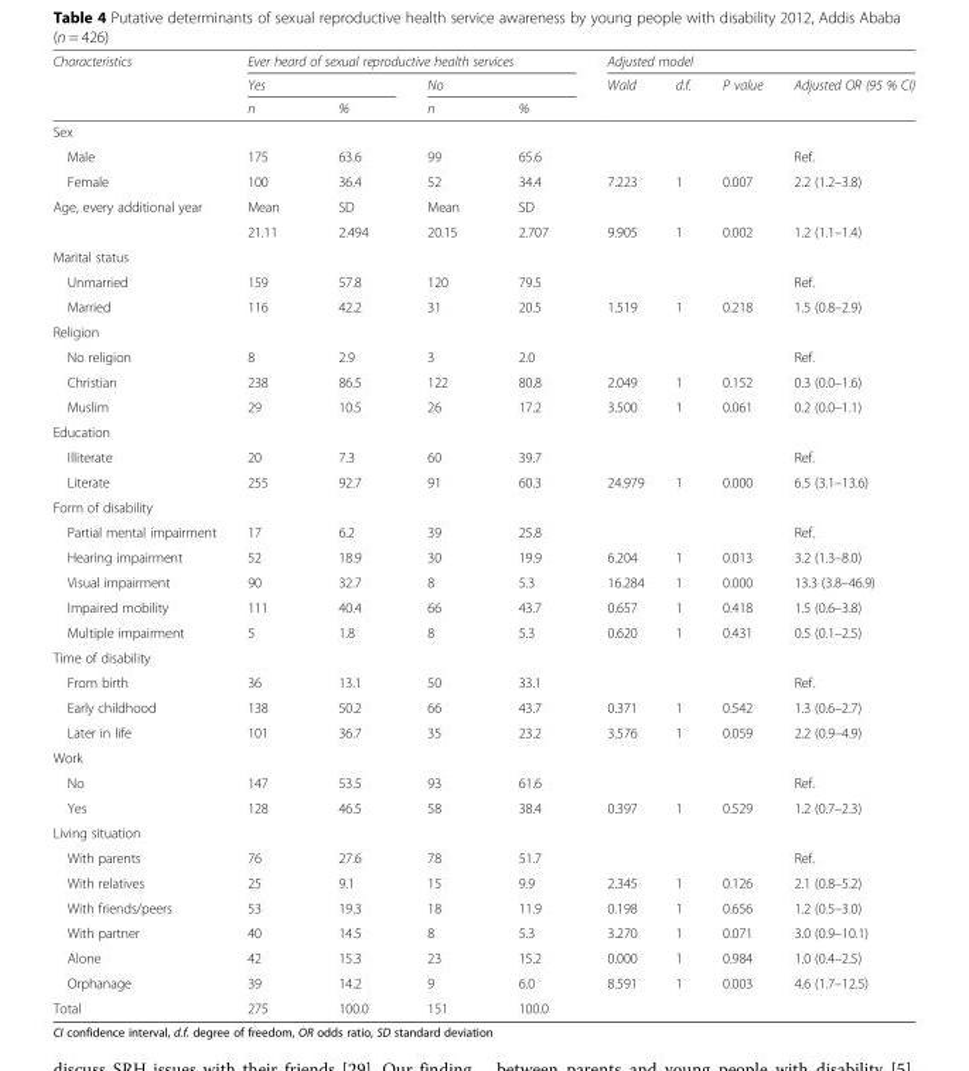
<table><thead><tr><td rowspan="3">Characteristics</td><td colspan="4">Ever heard of sexual reproductive health services</td><td colspan="4">Adjusted model</td></tr><tr><td colspan="2">Yes</td><td colspan="2">No</td><td rowspan="2">Wald</td><td rowspan="2">d.f.</td><td rowspan="2">P value</td><td rowspan="2">Adjusted OR (95 % CI)</td></tr><tr><td>n</td><td>%</td><td>n</td><td>%</td></tr></thead><tbody><tr><td colspan="9">Sex</td></tr><tr><td>Male</td><td>175</td><td>63.6</td><td>99</td><td>65.6</td><td></td><td></td><td></td><td>Ref.</td></tr><tr><td>Female</td><td>100</td><td>36.4</td><td>52</td><td>34.4</td><td>7.223</td><td>1</td><td>0.007</td><td>2.2 (1.2–3.8)</td></tr><tr><td rowspan="2">Age, every additional year</td><td>Mean</td><td>SD</td><td>Mean</td><td>SD</td><td></td><td></td><td></td><td></td></tr><tr><td>21.11</td><td>2.494</td><td>20.15</td><td>2.707</td><td>9.905</td><td>1</td><td>0.002</td><td>1.2 (1.1–1.4)</td></tr><tr><td colspan="9">Marital status</td></tr><tr><td>Unmarried</td><td>159</td><td>57.8</td><td>120</td><td>79.5</td><td></td><td></td><td></td><td>Ref.</td></tr><tr><td>Married</td><td>116</td><td>42.2</td><td>31</td><td>20.5</td><td>1.519</td><td>1</td><td>0.218</td><td>1.5 (0.8–2.9)</td></tr><tr><td colspan="9">Religion</td></tr><tr><td>No religion</td><td>8</td><td>2.9</td><td>3</td><td>2.0</td><td></td><td></td><td></td><td>Ref.</td></tr><tr><td>Christian</td><td>238</td><td>86.5</td><td>122</td><td>80.8</td><td>2.049</td><td>1</td><td>0.152</td><td>0.3 (0.0–1.6)</td></tr><tr><td>Muslim</td><td>29</td><td>10.5</td><td>26</td><td>17.2</td><td>3.500</td><td>1</td><td>0.061</td><td>0.2 (0.0–1.1)</td></tr><tr><td colspan="9">Education</td></tr><tr><td>Illiterate</td><td>20</td><td>7.3</td><td>60</td><td>39.7</td><td></td><td></td><td></td><td>Ref.</td></tr><tr><td>Literate</td><td>255</td><td>92.7</td><td>91</td><td>60.3</td><td>24.979</td><td>1</td><td>0.000</td><td>6.5 (3.1–13.6)</td></tr><tr><td colspan="9">Form of disability</td></tr><tr><td>Partial mental impairment</td><td>17</td><td>6.2</td><td>39</td><td>25.8</td><td></td><td></td><td></td><td>Ref.</td></tr><tr><td>Hearing impairment</td><td>52</td><td>18.9</td><td>30</td><td>19.9</td><td>6.204</td><td>1</td><td>0.013</td><td>3.2 (1.3–8.0)</td></tr><tr><td>Visual impairment</td><td>90</td><td>32.7</td><td>8</td><td>5.3</td><td>16.284</td><td>1</td><td>0.000</td><td>13.3 (3.8–46.9)</td></tr><tr><td>Impaired mobility</td><td>111</td><td>40.4</td><td>66</td><td>43.7</td><td>0.657</td><td>1</td><td>0.418</td><td>1.5 (0.6–3.8)</td></tr><tr><td>Multiple impairment</td><td>5</td><td>1.8</td><td>8</td><td>5.3</td><td>0.620</td><td>1</td><td>0.431</td><td>0.5 (0.1–2.5)</td></tr><tr><td colspan="9">Time of disability</td></tr><tr><td>From birth</td><td>36</td><td>13.1</td><td>50</td><td>33.1</td><td></td><td></td><td></td><td>Ref.</td></tr><tr><td>Early childhood</td><td>138</td><td>50.2</td><td>66</td><td>43.7</td><td>0.371</td><td>1</td><td>0.542</td><td>1.3 (0.6–2.7)</td></tr><tr><td>Later in life</td><td>101</td><td>36.7</td><td>35</td><td>23.2</td><td>3.576</td><td>1</td><td>0.059</td><td>2.2 (0.9–4.9)</td></tr><tr><td colspan="9">Work</td></tr><tr><td>No</td><td>147</td><td>53.5</td><td>93</td><td>61.6</td><td></td><td></td><td></td><td>Ref.</td></tr><tr><td>Yes</td><td>128</td><td>46.5</td><td>58</td><td>38.4</td><td>0.397</td><td>1</td><td>0.529</td><td>1.2 (0.7–2.3)</td></tr><tr><td colspan="9">Living situation</td></tr><tr><td>With parents</td><td>76</td><td>27.6</td><td>78</td><td>51.7</td><td></td><td></td><td></td><td>Ref.</td></tr><tr><td>With relatives</td><td>25</td><td>9.1</td><td>15</td><td>9.9</td><td>2.345</td><td>1</td><td>0.126</td><td>2.1 (0.8–5.2)</td></tr><tr><td>With friends/peers</td><td>53</td><td>19.3</td><td>18</td><td>11.9</td><td>0.198</td><td>1</td><td>0.656</td><td>1.2 (0.5–3.0)</td></tr><tr><td>With partner</td><td>40</td><td>14.5</td><td>8</td><td>5.3</td><td>3.270</td><td>1</td><td>0.071</td><td>3.0 (0.9–10.1)</td></tr><tr><td>Alone</td><td>42</td><td>15.3</td><td>23</td><td>15.2</td><td>0.000</td><td>1</td><td>0.984</td><td>1.0 (0.4–2.5)</td></tr><tr><td>Orphanage</td><td>39</td><td>14.2</td><td>9</td><td>6.0</td><td>8.591</td><td>1</td><td>0.003</td><td>4.6 (1.7–12.5)</td></tr><tr><td>Total</td><td>275</td><td>100.0</td><td>151</td><td>100.0</td><td></td><td></td><td></td><td></td></tr></tbody></table>